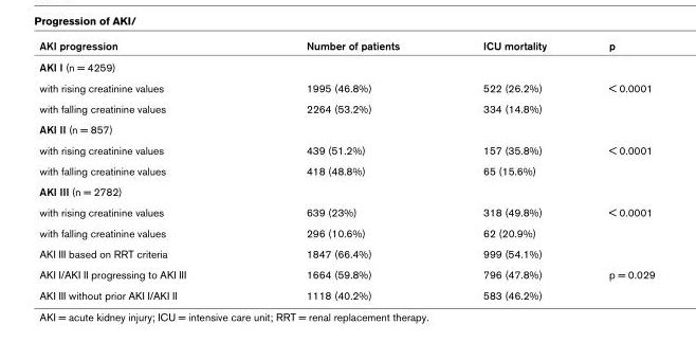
<table><thead><tr><td>AKI progression</td><td>Number of patients</td><td>ICU mortality</td><td>p</td></tr></thead><tbody><tr><td colspan="4">AKI I (n = 4259)</td></tr><tr><td>with rising creatinine values</td><td>1995 (46.8%)</td><td>522 (26.2%)</td><td>&lt; 0.0001</td></tr><tr><td>with falling creatinine values</td><td>2264 (53.2%)</td><td>334 (14.8%)</td><td></td></tr><tr><td colspan="4">AKI II (n = 857)</td></tr><tr><td>with rising creatinine values</td><td>439 (51.2%)</td><td>157 (35.8%)</td><td>&lt; 0.0001</td></tr><tr><td>with falling creatinine values</td><td>418 (48.8%)</td><td>65 (15.6%)</td><td></td></tr><tr><td colspan="4">AKI III (n = 2782)</td></tr><tr><td>with rising creatinine values</td><td>639 (23%)</td><td>318 (49.8%)</td><td>&lt; 0.0001</td></tr><tr><td>with falling creatinine values</td><td>296 (10.6%)</td><td>62 (20.9%)</td><td></td></tr><tr><td>AKI III based on RRT criteria</td><td>1847 (66.4%)</td><td>999 (54.1%)</td><td></td></tr><tr><td>AKI I/AKI II progressing to AKI III</td><td>1664 (59.8%)</td><td>796 (47.8%)</td><td>p = 0.029</td></tr><tr><td>AKI III without prior AKI I/AKI II</td><td>1118 (40.2%)</td><td>583 (46.2%)</td><td></td></tr></tbody></table>